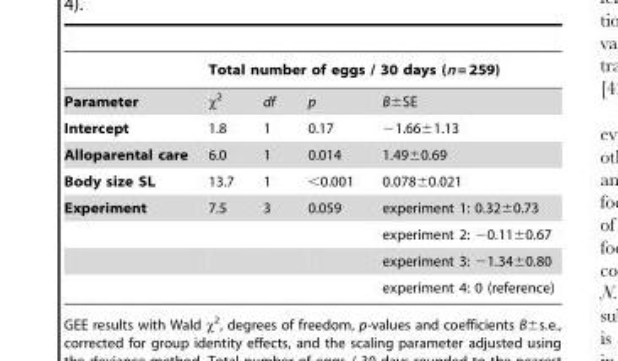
<table><thead><tr><td rowspan="2">Parameter</td><td colspan="4">Total number of eggs / 30 days (n = 259)</td></tr><tr><td>χ<sup>2</sup></td><td>df</td><td>p</td><td>B±SE</td></tr></thead><tbody><tr><td>Intercept</td><td>1.8</td><td>1</td><td>0.17</td><td>−1.66±1.13</td></tr><tr><td>Alloparental care</td><td>6.0</td><td>1</td><td>0.014</td><td>1.49±0.69</td></tr><tr><td>Body size SL</td><td>13.7</td><td>1</td><td>&lt;0.001</td><td>0.078±0.021</td></tr><tr><td rowspan="4">Experiment</td><td>7.5</td><td>3</td><td>0.059</td><td>experiment 1: 0.32±0.73</td></tr><tr><td></td><td></td><td></td><td>experiment 2: −0.11±0.67</td></tr><tr><td></td><td></td><td></td><td>experiment 3: −1.34±0.80</td></tr><tr><td></td><td></td><td></td><td>experiment 4: 0 (reference)</td></tr></tbody></table>